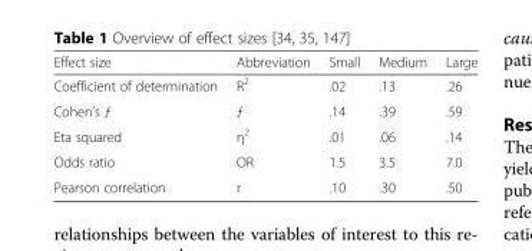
<table><thead><tr><td>Effect size</td><td>Abbreviation</td><td>Small</td><td>Medium</td><td>Large</td></tr></thead><tbody><tr><td>Coefficient of determination</td><td>R<sup>2</sup></td><td>.02</td><td>.13</td><td>.26</td></tr><tr><td>Cohen’s ƒ</td><td>ƒ</td><td>.14</td><td>.39</td><td>.59</td></tr><tr><td>Eta squared</td><td>η<sup>2</sup></td><td>.01</td><td>.06</td><td>.14</td></tr><tr><td>Odds ratio</td><td>OR</td><td>1.5</td><td>3.5</td><td>7.0</td></tr><tr><td>Pearson correlation</td><td>r</td><td>.10</td><td>.30</td><td>.50</td></tr></tbody></table>